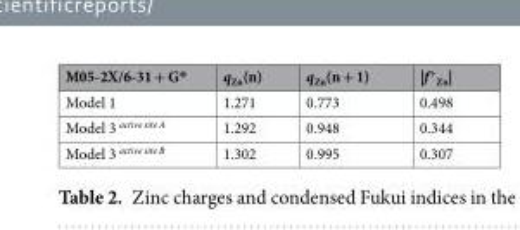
<table><thead><tr><td>M05-2X/6-31 + G*</td><td>q<sub>Zn</sub>(n)</td><td>q<sub>Zn</sub>(n + 1)</td><td>|f<sup>+</sup> <sub>Zn</sub>|</td></tr></thead><tbody><tr><td>Model 1</td><td>1.271</td><td>0.773</td><td>0.498</td></tr><tr><td>Model 3 <sup>active site A</sup></td><td>1.292</td><td>0.948</td><td>0.344</td></tr><tr><td>Model 3 <sup>active site B</sup></td><td>1.302</td><td>0.995</td><td>0.307</td></tr></tbody></table>